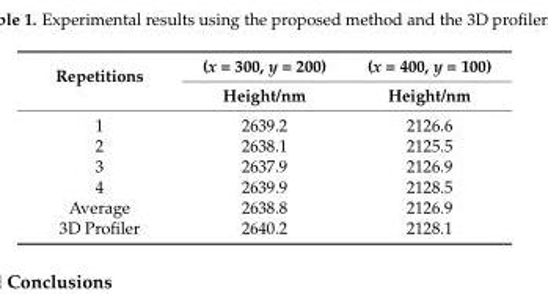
<table><thead><tr><td rowspan="2">Repetitions</td><td rowspan="2">(x = 300, y = 200) Height/nm</td><td rowspan="2">(x = 400, y = 100) Height/nm</td></tr><tr></tr></thead><tbody><tr><td>1</td><td>2639.2</td><td>2126.6</td></tr><tr><td>2</td><td>2638.1</td><td>2125.5</td></tr><tr><td>3</td><td>2637.9</td><td>2126.9</td></tr><tr><td>4</td><td>2639.9</td><td>2128.5</td></tr><tr><td>Average</td><td>2638.8</td><td>2126.9</td></tr><tr><td>3D Profiler</td><td>2640.2</td><td>2128.1</td></tr></tbody></table>